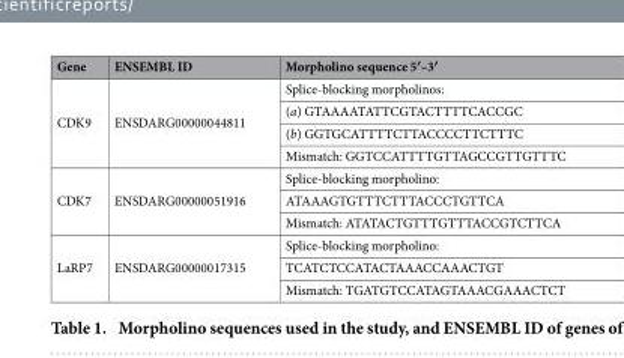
<table><thead><tr><td>Gene</td><td>ENSEMBL ID</td><td>Morpholino sequence 5′–3′</td></tr></thead><tbody><tr><td rowspan="4">CDK9</td><td rowspan="4">ENSDARG00000044811</td><td>Splice-blocking morpholinos:</td></tr><tr><td>(a) GTAAAATATTCGTACTTTTCACCGC</td></tr><tr><td>(b) GGTGCATTTTCTTACCCCTTCTTTC</td></tr><tr><td>Mismatch: GGTCCATTTTGTTAGCCGTTGTTTC</td></tr><tr><td rowspan="3">CDK7</td><td rowspan="3">ENSDARG00000051916</td><td>Splice-blocking morpholino:</td></tr><tr><td>ATAAAGTGTTTCTTTACCCTGTTCA</td></tr><tr><td>Mismatch: ATATACTGTTTGTTTACCGTCTTCA</td></tr><tr><td rowspan="3">LaRP7</td><td rowspan="3">ENSDARG00000017315</td><td>Splice-blocking morpholino:</td></tr><tr><td>TCATCTCCATACTAAACCAAACTGT</td></tr><tr><td>Mismatch: TGATGTCCATAGTAAACGAAACTCT</td></tr></tbody></table>